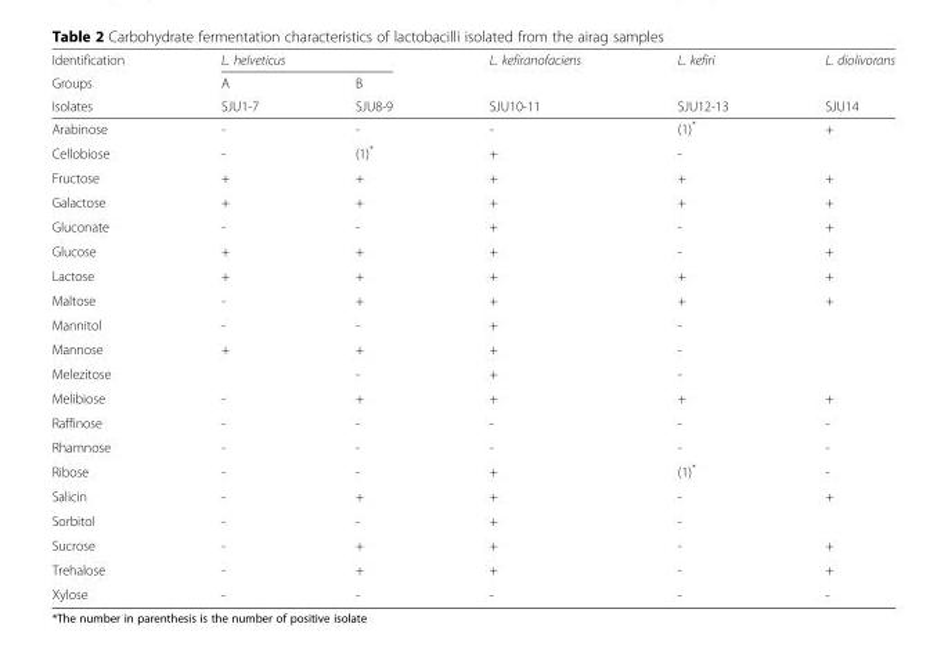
<table><thead><tr><td rowspan="3">Identification Groups Isolates</td><td colspan="2">L. helveticus</td><td rowspan="3">L. kefiranofaciens SJU10-11</td><td rowspan="3">L. kefiri SJU12-13</td><td rowspan="3">L. diolivorans SJU14</td></tr><tr><td rowspan="2">A SJU1-7</td><td rowspan="2">B SJU8-9</td></tr><tr></tr></thead><tbody><tr><td>Arabinose</td><td>-</td><td>-</td><td>-</td><td>(1)*</td><td>+</td></tr><tr><td>Cellobiose</td><td>-</td><td>(1)*</td><td>+</td><td>-</td><td></td></tr><tr><td>Fructose</td><td>+</td><td>+</td><td>+</td><td>+</td><td>+</td></tr><tr><td>Galactose</td><td>+</td><td>+</td><td>+</td><td>+</td><td>+</td></tr><tr><td>Gluconate</td><td>-</td><td>-</td><td>+</td><td>-</td><td>+</td></tr><tr><td>Glucose</td><td>+</td><td>+</td><td>+</td><td>-</td><td>+</td></tr><tr><td>Lactose</td><td>+</td><td>+</td><td>+</td><td>+</td><td>+</td></tr><tr><td>Maltose</td><td>-</td><td>+</td><td>+</td><td>+</td><td>+</td></tr><tr><td>Mannitol</td><td>-</td><td>-</td><td>+</td><td>-</td><td></td></tr><tr><td>Mannose</td><td>+</td><td>+</td><td>+</td><td>-</td><td></td></tr><tr><td>Melezitose</td><td></td><td>-</td><td>+</td><td>-</td><td></td></tr><tr><td>Melibiose</td><td>-</td><td>+</td><td>+</td><td>+</td><td>+</td></tr><tr><td>Raffinose</td><td>-</td><td>-</td><td>-</td><td>-</td><td>-</td></tr><tr><td>Rhamnose</td><td>-</td><td>-</td><td>-</td><td>-</td><td>-</td></tr><tr><td>Ribose</td><td>-</td><td>-</td><td>+</td><td>(1)*</td><td>-</td></tr><tr><td>Salicin</td><td>-</td><td>+</td><td>+</td><td>-</td><td>+</td></tr><tr><td>Sorbitol</td><td>-</td><td>-</td><td>+</td><td>-</td><td></td></tr><tr><td>Sucrose</td><td>-</td><td>+</td><td>+</td><td>-</td><td>+</td></tr><tr><td>Trehalose</td><td>-</td><td>+</td><td>+</td><td>-</td><td>+</td></tr><tr><td>Xylose</td><td>-</td><td>-</td><td>-</td><td>-</td><td>-</td></tr></tbody></table>